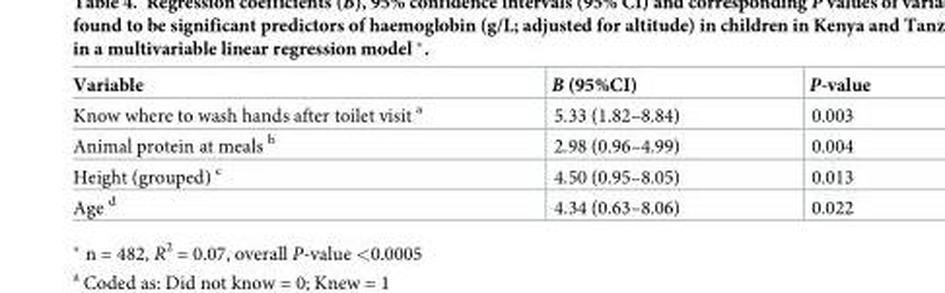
<table><thead><tr><td>Variable</td><td>B (95%CI)</td><td>P-value</td></tr></thead><tbody><tr><td>Know where to wash hands after toilet visit <sup>a</sup></td><td>5.33 (1.82–8.84)</td><td>0.003</td></tr><tr><td>Animal protein at meals <sup>b</sup></td><td>2.98 (0.96–4.99)</td><td>0.004</td></tr><tr><td>Height (grouped) <sup>c</sup></td><td>4.50 (0.95–8.05)</td><td>0.013</td></tr><tr><td>Age <sup>d</sup></td><td>4.34 (0.63–8.06)</td><td>0.022</td></tr></tbody></table>